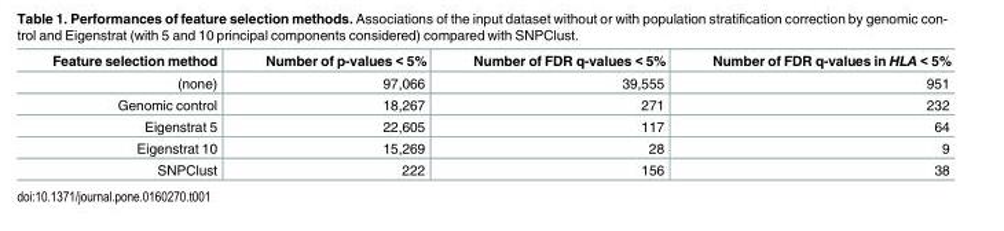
<table><thead><tr><td>Feature selection method</td><td>Number of p-values &lt; 5%</td><td>Number of FDR q-values &lt; 5%</td><td>Number of FDR q-values in HLA &lt; 5%</td></tr></thead><tbody><tr><td>(none)</td><td>97,066</td><td>39,555</td><td>951</td></tr><tr><td>Genomic control</td><td>18,267</td><td>271</td><td>232</td></tr><tr><td>Eigenstrat 5</td><td>22,605</td><td>117</td><td>64</td></tr><tr><td>Eigenstrat 10</td><td>15,269</td><td>28</td><td>9</td></tr><tr><td>SNPClust</td><td>222</td><td>156</td><td>38</td></tr></tbody></table>